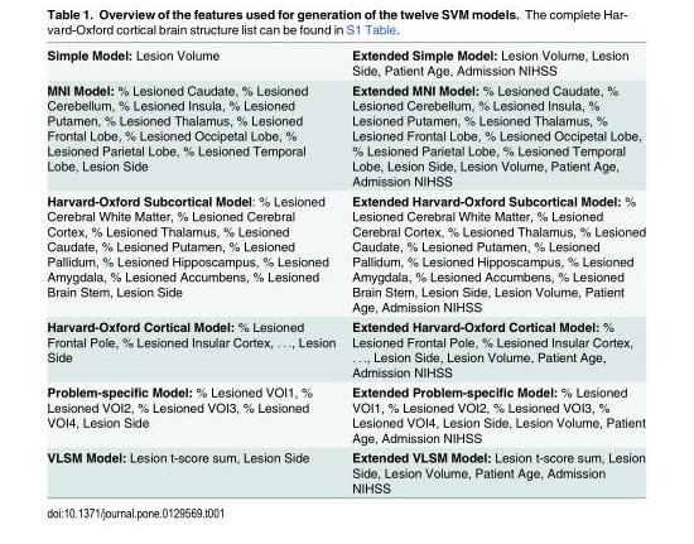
<table><tbody><tr><td>Simple Model: Lesion Volume</td><td>Extended Simple Model: Lesion Volume, Lesion Side, Patient Age, Admission NIHSS</td></tr><tr><td>MNI Model: % Lesioned Caudate, % Lesioned Cerebellum, % Lesioned Insula, % Lesioned Putamen, % Lesioned Thalamus, % Lesioned Frontal Lobe, % Lesioned Occipetal Lobe, % Lesioned Parietal Lobe, % Lesioned Temporal Lobe, Lesion Side</td><td>Extended MNI Model: % Lesioned Caudate, % Lesioned Cerebellum, % Lesioned Insula, % Lesioned Putamen, % Lesioned Thalamus, % Lesioned Frontal Lobe, % Lesioned Occipetal Lobe, % Lesioned Parietal Lobe, % Lesioned Temporal Lobe, Lesion Side, Lesion Volume, Patient Age, Admission NIHSS</td></tr><tr><td>Harvard-Oxford Subcortical Model: % Lesioned Cerebral White Matter, % Lesioned Cerebral Cortex, % Lesioned Thalamus, % Lesioned Caudate, % Lesioned Putamen, % Lesioned Pallidum, % Lesioned Hipposcampus, % Lesioned Amygdala, % Lesioned Accumbens, % Lesioned Brain Stem, Lesion Side</td><td>Extended Harvard-Oxford Subcortical Model: % Lesioned Cerebral White Matter, % Lesioned Cerebral Cortex, % Lesioned Thalamus, % Lesioned Caudate, % Lesioned Putamen, % Lesioned Pallidum, % Lesioned Hipposcampus, % Lesioned Amygdala, % Lesioned Accumbens, % Lesioned Brain Stem, Lesion Side, Lesion Volume, Patient Age, Admission NIHSS</td></tr><tr><td>Harvard-Oxford Cortical Model: % Lesioned Frontal Pole, % Lesioned Insular Cortex, . . ., Lesion Side</td><td>Extended Harvard-Oxford Cortical Model: % Lesioned Frontal Pole, % Lesioned Insular Cortex, . . ., Lesion Side, Lesion Volume, Patient Age, Admission NIHSS</td></tr><tr><td>Problem-specific Model: % Lesioned VOI1, % Lesioned VOI2, % Lesioned VOI3, % Lesioned VOI4, Lesion Side</td><td>Extended Problem-specific Model: % Lesioned VOI1, % Lesioned VOI2, % Lesioned VOI3, % Lesioned VOI4, Lesion Side, Lesion Volume, Patient Age, Admission NIHSS</td></tr><tr><td>VLSM Model: Lesion t-score sum, Lesion Side</td><td>Extended VLSM Model: Lesion t-score sum, Lesion Side, Lesion Volume, Patient Age, Admission NIHSS</td></tr></tbody></table>